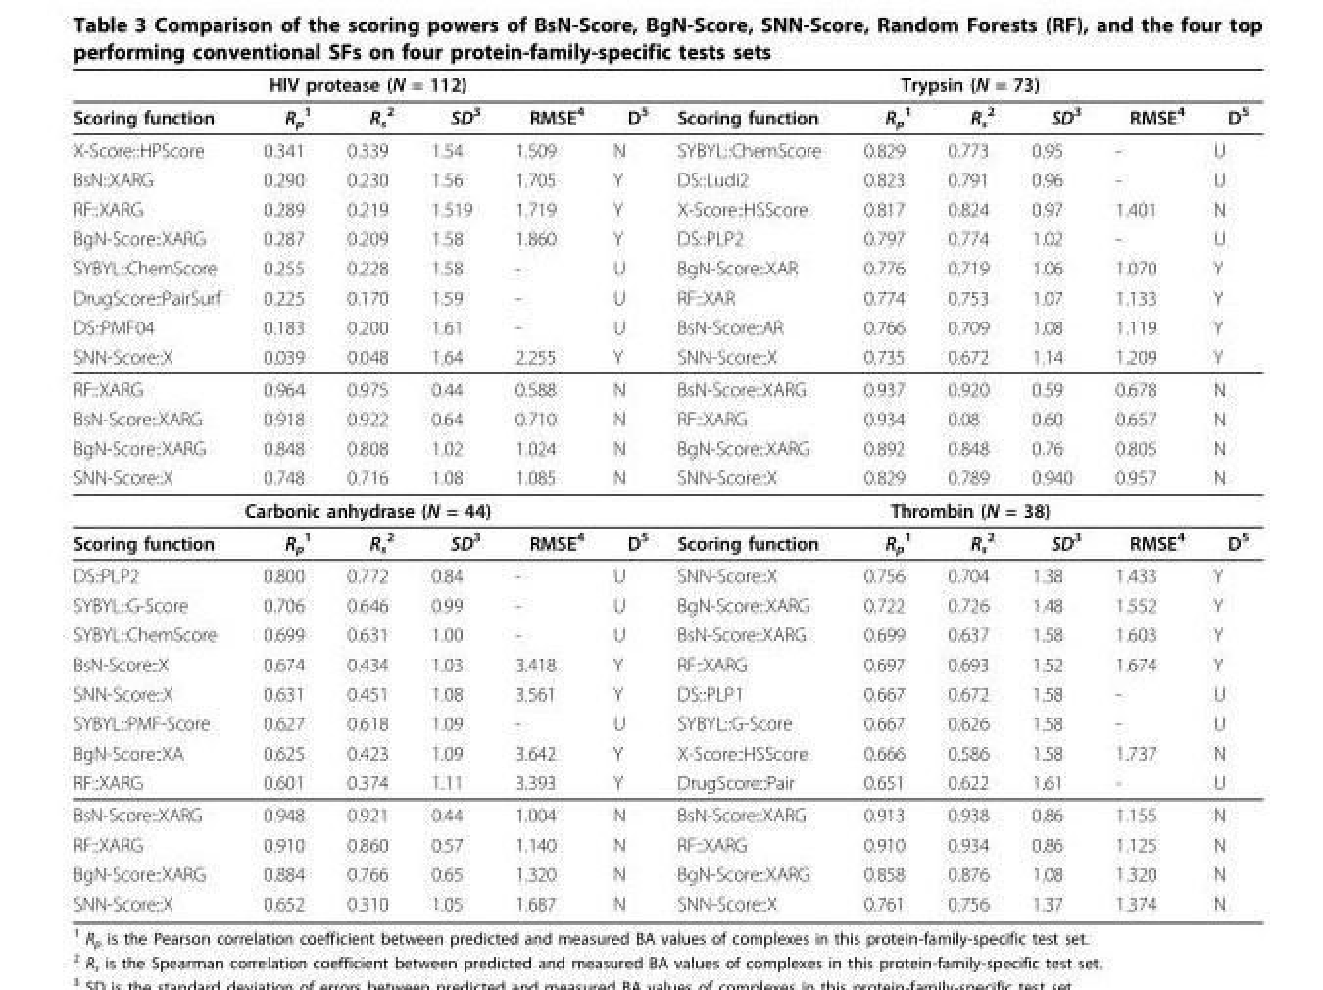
<table><thead><tr><td colspan="6">HIV protease (N = 112)</td><td colspan="6">Trypsin (N = 73)</td></tr><tr><td>Scoring function</td><td>R<sub>p</sub> <sup>1</sup></td><td>R<sub>s</sub> <sup>2</sup></td><td>SD<sup>3</sup></td><td>RMSE<sup>4</sup></td><td>D<sup>5</sup></td><td>Scoring function</td><td>R<sub>p</sub> <sup>1</sup></td><td>R<sub>s</sub> <sup>2</sup></td><td>SD<sup>3</sup></td><td>RMSE<sup>4</sup></td><td>D<sup>5</sup></td></tr></thead><tbody><tr><td>X-Score::HPScore</td><td>0.341</td><td>0.339</td><td>1.54</td><td>1.509</td><td>N</td><td>SYBYL::ChemScore</td><td>0.829</td><td>0.773</td><td>0.95</td><td>-</td><td>U</td></tr><tr><td>BsN::XARG</td><td>0.290</td><td>0.230</td><td>1.56</td><td>1.705</td><td>Y</td><td>DS::Ludi2</td><td>0.823</td><td>0.791</td><td>0.96</td><td>-</td><td>U</td></tr><tr><td>RF::XARG</td><td>0.289</td><td>0.219</td><td>1.519</td><td>1.719</td><td>Y</td><td>X-Score::HSScore</td><td>0.817</td><td>0.824</td><td>0.97</td><td>1.401</td><td>N</td></tr><tr><td>BgN-Score::XARG</td><td>0.287</td><td>0.209</td><td>1.58</td><td>1.860</td><td>Y</td><td>DS::PLP2</td><td>0.797</td><td>0.774</td><td>1.02</td><td>-</td><td>U</td></tr><tr><td>SYBYL::ChemScore</td><td>0.255</td><td>0.228</td><td>1.58</td><td>-</td><td>U</td><td>BgN-Score::XAR</td><td>0.776</td><td>0.719</td><td>1.06</td><td>1.070</td><td>Y</td></tr><tr><td>DrugScore::PairSurf</td><td>0.225</td><td>0.170</td><td>1.59</td><td>-</td><td>U</td><td>RF::XAR</td><td>0.774</td><td>0.753</td><td>1.07</td><td>1.133</td><td>Y</td></tr><tr><td>DS::PMF04</td><td>0.183</td><td>0.200</td><td>1.61</td><td>-</td><td>U</td><td>BsN-Score::AR</td><td>0.766</td><td>0.709</td><td>1.08</td><td>1.119</td><td>Y</td></tr><tr><td>SNN-Score::X</td><td>0.039</td><td>0.048</td><td>1.64</td><td>2.255</td><td>Y</td><td>SNN-Score::X</td><td>0.735</td><td>0.672</td><td>1.14</td><td>1.209</td><td>Y</td></tr><tr><td>RF::XARG</td><td>0.964</td><td>0.975</td><td>0.44</td><td>0.588</td><td>N</td><td>BsN-Score::XARG</td><td>0.937</td><td>0.920</td><td>0.59</td><td>0.678</td><td>N</td></tr><tr><td>BsN-Score::XARG</td><td>0.918</td><td>0.922</td><td>0.64</td><td>0.710</td><td>N</td><td>RF::XARG</td><td>0.934</td><td>0.08</td><td>0.60</td><td>0.657</td><td>N</td></tr><tr><td>BgN-Score::XARG</td><td>0.848</td><td>0.808</td><td>1.02</td><td>1.024</td><td>N</td><td>BgN-Score::XARG</td><td>0.892</td><td>0.848</td><td>0.76</td><td>0.805</td><td>N</td></tr><tr><td>SNN-Score::X</td><td>0.748</td><td>0.716</td><td>1.08</td><td>1.085</td><td>N</td><td>SNN-Score::X</td><td>0.829</td><td>0.789</td><td>0.940</td><td>0.957</td><td>N</td></tr><tr><td colspan="6">Carbonic anhydrase (N = 44)</td><td colspan="6">Thrombin (N = 38)</td></tr><tr><td>Scoring function</td><td>R<sub>p</sub> <sup>1</sup></td><td>R<sub>s</sub> <sup>2</sup></td><td>SD<sup>3</sup></td><td>RMSE<sup>4</sup></td><td>D<sup>5</sup></td><td>Scoring function</td><td>R<sub>p</sub> <sup>1</sup></td><td>R<sub>s</sub> <sup>2</sup></td><td>SD<sup>3</sup></td><td>RMSE<sup>4</sup></td><td>D<sup>5</sup></td></tr><tr><td>DS::PLP2</td><td>0.800</td><td>0.772</td><td>0.84</td><td>-</td><td>U</td><td>SNN-Score::X</td><td>0.756</td><td>0.704</td><td>1.38</td><td>1.433</td><td>Y</td></tr><tr><td>SYBYL::G-Score</td><td>0.706</td><td>0.646</td><td>0.99</td><td>-</td><td>U</td><td>BgN-Score::XARG</td><td>0.722</td><td>0.726</td><td>1.48</td><td>1.552</td><td>Y</td></tr><tr><td>SYBYL::ChemScore</td><td>0.699</td><td>0.631</td><td>1.00</td><td>-</td><td>U</td><td>BsN-Score::XARG</td><td>0.699</td><td>0.637</td><td>1.58</td><td>1.603</td><td>Y</td></tr><tr><td>BsN-Score::X</td><td>0.674</td><td>0.434</td><td>1.03</td><td>3.418</td><td>Y</td><td>RF::XARG</td><td>0.697</td><td>0.693</td><td>1.52</td><td>1.674</td><td>Y</td></tr><tr><td>SNN-Score::X</td><td>0.631</td><td>0.451</td><td>1.08</td><td>3.561</td><td>Y</td><td>DS::PLP1</td><td>0.667</td><td>0.672</td><td>1.58</td><td>-</td><td>U</td></tr><tr><td>SYBYL::PMF-Score</td><td>0.627</td><td>0.618</td><td>1.09</td><td>-</td><td>U</td><td>SYBYL::G-Score</td><td>0.667</td><td>0.626</td><td>1.58</td><td>-</td><td>U</td></tr><tr><td>BgN-Score::XA</td><td>0.625</td><td>0.423</td><td>1.09</td><td>3.642</td><td>Y</td><td>X-Score::HSScore</td><td>0.666</td><td>0.586</td><td>1.58</td><td>1.737</td><td>N</td></tr><tr><td>RF::XARG</td><td>0.601</td><td>0.374</td><td>1.11</td><td>3.393</td><td>Y</td><td>DrugScore::Pair</td><td>0.651</td><td>0.622</td><td>1.61</td><td>-</td><td>U</td></tr><tr><td>BsN-Score::XARG</td><td>0.948</td><td>0.921</td><td>0.44</td><td>1.004</td><td>N</td><td>BsN-Score::XARG</td><td>0.913</td><td>0.938</td><td>0.86</td><td>1.155</td><td>N</td></tr><tr><td>RF::XARG</td><td>0.910</td><td>0.860</td><td>0.57</td><td>1.140</td><td>N</td><td>RF::XARG</td><td>0.910</td><td>0.934</td><td>0.86</td><td>1.125</td><td>N</td></tr><tr><td>BgN-Score::XARG</td><td>0.884</td><td>0.766</td><td>0.65</td><td>1.320</td><td>N</td><td>BgN-Score::XARG</td><td>0.858</td><td>0.876</td><td>1.08</td><td>1.320</td><td>N</td></tr><tr><td>SNN-Score::X</td><td>0.652</td><td>0.310</td><td>1.05</td><td>1.687</td><td>N</td><td>SNN-Score::X</td><td>0.761</td><td>0.756</td><td>1.37</td><td>1.374</td><td>N</td></tr></tbody></table>